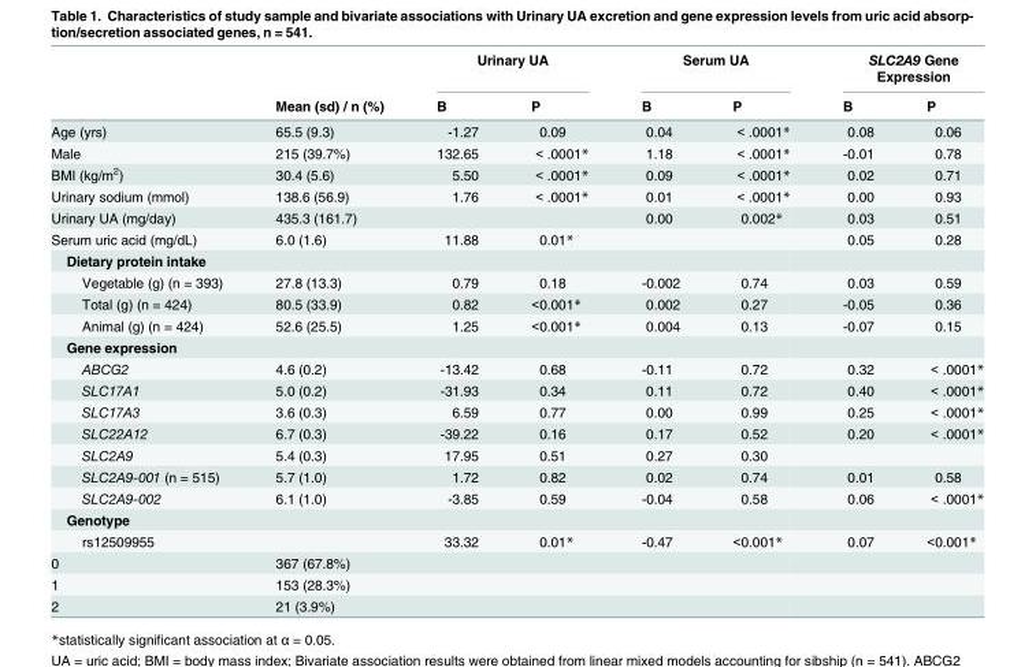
<table><thead><tr><td rowspan="2"></td><td rowspan="2">Mean (sd) / n (%)</td><td colspan="2">Urinary UA</td><td colspan="2">Serum UA</td><td colspan="2">SLC2A9 Gene Expression</td></tr><tr><td>B</td><td>P</td><td>B</td><td>P</td><td>B</td><td>P</td></tr></thead><tbody><tr><td>Age (yrs)</td><td>65.5 (9.3)</td><td>-1.27</td><td>0.09</td><td>0.04</td><td>&lt; .0001*</td><td>0.08</td><td>0.06</td></tr><tr><td>Male</td><td>215 (39.7%)</td><td>132.65</td><td>&lt; .0001*</td><td>1.18</td><td>&lt; .0001*</td><td>-0.01</td><td>0.78</td></tr><tr><td>BMI (kg/m<sup>2</sup>)</td><td>30.4 (5.6)</td><td>5.50</td><td>&lt; .0001*</td><td>0.09</td><td>&lt; .0001*</td><td>0.02</td><td>0.71</td></tr><tr><td>Urinary sodium (mmol)</td><td>138.6 (56.9)</td><td>1.76</td><td>&lt; .0001*</td><td>0.01</td><td>&lt; .0001*</td><td>0.00</td><td>0.93</td></tr><tr><td>Urinary UA (mg/day)</td><td>435.3 (161.7)</td><td></td><td></td><td>0.00</td><td>0.002*</td><td>0.03</td><td>0.51</td></tr><tr><td>Serum uric acid (mg/dL)</td><td>6.0 (1.6)</td><td>11.88</td><td>0.01*</td><td></td><td></td><td>0.05</td><td>0.28</td></tr><tr><td colspan="8">Dietary protein intake</td></tr><tr><td>Vegetable (g) (n = 393)</td><td>27.8 (13.3)</td><td>0.79</td><td>0.18</td><td>-0.002</td><td>0.74</td><td>0.03</td><td>0.59</td></tr><tr><td>Total (g) (n = 424)</td><td>80.5 (33.9)</td><td>0.82</td><td>&lt;0.001*</td><td>0.002</td><td>0.27</td><td>-0.05</td><td>0.36</td></tr><tr><td>Animal (g) (n = 424)</td><td>52.6 (25.5)</td><td>1.25</td><td>&lt;0.001*</td><td>0.004</td><td>0.13</td><td>-0.07</td><td>0.15</td></tr><tr><td colspan="8">Gene expression</td></tr><tr><td>ABCG2</td><td>4.6 (0.2)</td><td>-13.42</td><td>0.68</td><td>-0.11</td><td>0.72</td><td>0.32</td><td>&lt; .0001*</td></tr><tr><td>SLC17A1</td><td>5.0 (0.2)</td><td>-31.93</td><td>0.34</td><td>0.11</td><td>0.72</td><td>0.40</td><td>&lt; .0001*</td></tr><tr><td>SLC17A3</td><td>3.6 (0.3)</td><td>6.59</td><td>0.77</td><td>0.00</td><td>0.99</td><td>0.25</td><td>&lt; .0001*</td></tr><tr><td>SLC22A12</td><td>6.7 (0.3)</td><td>-39.22</td><td>0.16</td><td>0.17</td><td>0.52</td><td>0.20</td><td>&lt; .0001*</td></tr><tr><td>SLC2A9</td><td>5.4 (0.3)</td><td>17.95</td><td>0.51</td><td>0.27</td><td>0.30</td><td></td><td></td></tr><tr><td>SLC2A9-001 (n = 515)</td><td>5.7 (1.0)</td><td>1.72</td><td>0.82</td><td>0.02</td><td>0.74</td><td>0.01</td><td>0.58</td></tr><tr><td>SLC2A9-002</td><td>6.1 (1.0)</td><td>-3.85</td><td>0.59</td><td>-0.04</td><td>0.58</td><td>0.06</td><td>&lt; .0001*</td></tr><tr><td colspan="8">Genotype</td></tr><tr><td>rs12509955</td><td></td><td>33.32</td><td>0.01*</td><td>-0.47</td><td>&lt;0.001*</td><td>0.07</td><td>&lt;0.001*</td></tr><tr><td>0</td><td>367 (67.8%)</td><td></td><td></td><td></td><td></td><td></td><td></td></tr><tr><td>1</td><td>153 (28.3%)</td><td></td><td></td><td></td><td></td><td></td><td></td></tr><tr><td>2</td><td>21 (3.9%)</td><td></td><td></td><td></td><td></td><td></td><td></td></tr></tbody></table>